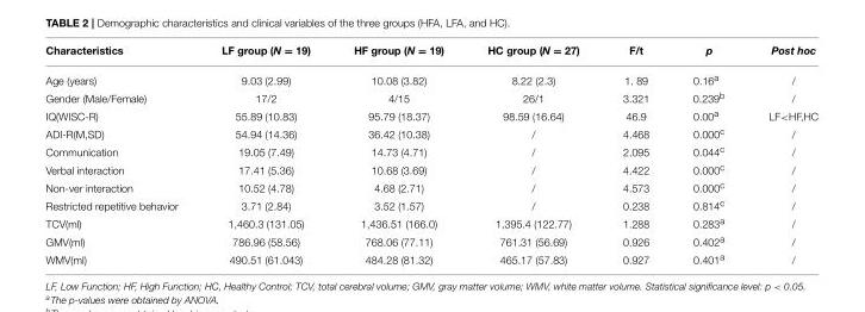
<table><thead><tr><td>Characteristics</td><td>LF group (N = 19)</td><td>HF group (N = 19)</td><td>HC group (N = 27)</td><td>F/t</td><td>p</td><td>Post hoc</td></tr></thead><tbody><tr><td>Age (years)</td><td>9.03 (2.99)</td><td>10.08 (3.82)</td><td>8.22 (2.3)</td><td>1. 89</td><td>0.16<sup>a</sup></td><td>/</td></tr><tr><td>Gender (Male/Female)</td><td>17/2</td><td>4/15</td><td>26/1</td><td>3.321</td><td>0.239<sup>b</sup></td><td>/</td></tr><tr><td>IQ(WISC-R)</td><td>55.89 (10.83)</td><td>95.79 (18.37)</td><td>98.59 (16.64)</td><td>46.9</td><td>0.00<sup>a</sup></td><td>LF&lt;HF,HC</td></tr><tr><td>ADI-R(M,SD)</td><td>54.94 (14.36)</td><td>36.42 (10.38)</td><td>/</td><td>4.468</td><td>0.000<sup>c</sup></td><td>/</td></tr><tr><td>Communication</td><td>19.05 (7.49)</td><td>14.73 (4.71)</td><td>/</td><td>2.095</td><td>0.044<sup>c</sup></td><td>/</td></tr><tr><td>Verbal interaction</td><td>17.41 (5.36)</td><td>10.68 (3.69)</td><td>/</td><td>4.422</td><td>0.000<sup>c</sup></td><td>/</td></tr><tr><td>Non-ver interaction</td><td>10.52 (4.78)</td><td>4.68 (2.71)</td><td>/</td><td>4.573</td><td>0.000<sup>c</sup></td><td>/</td></tr><tr><td>Restricted repetitive behavior</td><td>3.71 (2.84)</td><td>3.52 (1.57)</td><td>/</td><td>0.238</td><td>0.814<sup>c</sup></td><td>/</td></tr><tr><td>TCV(ml)</td><td>1,460.3 (131.05)</td><td>1,436.51 (166.0)</td><td>1,395.4 (122.77)</td><td>1.288</td><td>0.283<sup>a</sup></td><td>/</td></tr><tr><td>GMV(ml)</td><td>786.96 (58.56)</td><td>768.06 (77.11)</td><td>761.31 (56.69)</td><td>0.926</td><td>0.402<sup>a</sup></td><td>/</td></tr><tr><td>WMV(ml)</td><td>490.51 (61.043)</td><td>484.28 (81.32)</td><td>465.17 (57.83)</td><td>0.927</td><td>0.401<sup>a</sup></td><td>/</td></tr></tbody></table>